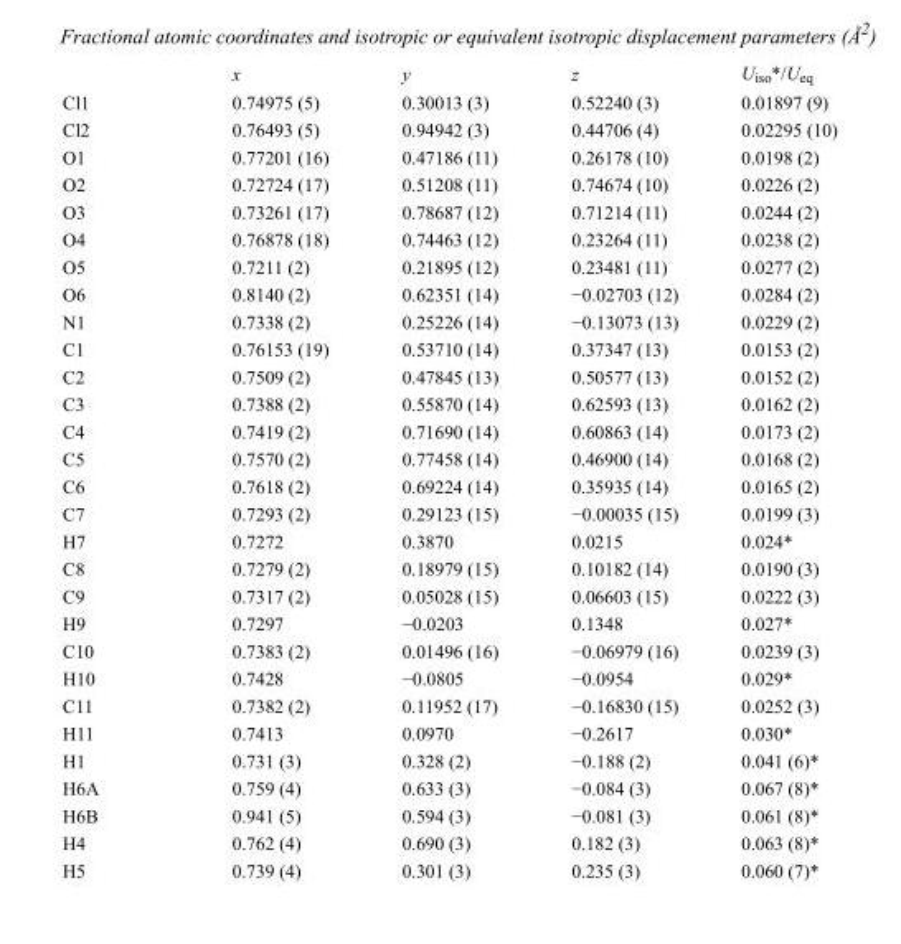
<table><thead><tr><td></td><td>x</td><td>y</td><td>z</td><td>U<sub>iso</sub>*/U<sub>eq</sub></td></tr></thead><tbody><tr><td>Cl1</td><td>0.74975 (5)</td><td>0.30013 (3)</td><td>0.52240 (3)</td><td>0.01897 (9)</td></tr><tr><td>Cl2</td><td>0.76493 (5)</td><td>0.94942 (3)</td><td>0.44706 (4)</td><td>0.02295 (10)</td></tr><tr><td>O1</td><td>0.77201 (16)</td><td>0.47186 (11)</td><td>0.26178 (10)</td><td>0.0198 (2)</td></tr><tr><td>O2</td><td>0.72724 (17)</td><td>0.51208 (11)</td><td>0.74674 (10)</td><td>0.0226 (2)</td></tr><tr><td>O3</td><td>0.73261 (17)</td><td>0.78687 (12)</td><td>0.71214 (11)</td><td>0.0244 (2)</td></tr><tr><td>O4</td><td>0.76878 (18)</td><td>0.74463 (12)</td><td>0.23264 (11)</td><td>0.0238 (2)</td></tr><tr><td>O5</td><td>0.7211 (2)</td><td>0.21895 (12)</td><td>0.23481 (11)</td><td>0.0277 (2)</td></tr><tr><td>O6</td><td>0.8140 (2)</td><td>0.62351 (14)</td><td>−0.02703 (12)</td><td>0.0284 (2)</td></tr><tr><td>N1</td><td>0.7338 (2)</td><td>0.25226 (14)</td><td>−0.13073 (13)</td><td>0.0229 (2)</td></tr><tr><td>C1</td><td>0.76153 (19)</td><td>0.53710 (14)</td><td>0.37347 (13)</td><td>0.0153 (2)</td></tr><tr><td>C2</td><td>0.7509 (2)</td><td>0.47845 (13)</td><td>0.50577 (13)</td><td>0.0152 (2)</td></tr><tr><td>C3</td><td>0.7388 (2)</td><td>0.55870 (14)</td><td>0.62593 (13)</td><td>0.0162 (2)</td></tr><tr><td>C4</td><td>0.7419 (2)</td><td>0.71690 (14)</td><td>0.60863 (14)</td><td>0.0173 (2)</td></tr><tr><td>C5</td><td>0.7570 (2)</td><td>0.77458 (14)</td><td>0.46900 (14)</td><td>0.0168 (2)</td></tr><tr><td>C6</td><td>0.7618 (2)</td><td>0.69224 (14)</td><td>0.35935 (14)</td><td>0.0165 (2)</td></tr><tr><td>C7</td><td>0.7293 (2)</td><td>0.29123 (15)</td><td>−0.00035 (15)</td><td>0.0199 (3)</td></tr><tr><td>H7</td><td>0.7272</td><td>0.3870</td><td>0.0215</td><td>0.024*</td></tr><tr><td>C8</td><td>0.7279 (2)</td><td>0.18979 (15)</td><td>0.10182 (14)</td><td>0.0190 (3)</td></tr><tr><td>C9</td><td>0.7317 (2)</td><td>0.05028 (15)</td><td>0.06603 (15)</td><td>0.0222 (3)</td></tr><tr><td>H9</td><td>0.7297</td><td>−0.0203</td><td>0.1348</td><td>0.027*</td></tr><tr><td>C10</td><td>0.7383 (2)</td><td>0.01496 (16)</td><td>−0.06979 (16)</td><td>0.0239 (3)</td></tr><tr><td>H10</td><td>0.7428</td><td>−0.0805</td><td>−0.0954</td><td>0.029*</td></tr><tr><td>C11</td><td>0.7382 (2)</td><td>0.11952 (17)</td><td>−0.16830 (15)</td><td>0.0252 (3)</td></tr><tr><td>H11</td><td>0.7413</td><td>0.0970</td><td>−0.2617</td><td>0.030*</td></tr><tr><td>H1</td><td>0.731 (3)</td><td>0.328 (2)</td><td>−0.188 (2)</td><td>0.041 (6)*</td></tr><tr><td>H6A</td><td>0.759 (4)</td><td>0.633 (3)</td><td>−0.084 (3)</td><td>0.067 (8)*</td></tr><tr><td>H6B</td><td>0.941 (5)</td><td>0.594 (3)</td><td>−0.081 (3)</td><td>0.061 (8)*</td></tr><tr><td>H4</td><td>0.762 (4)</td><td>0.690 (3)</td><td>0.182 (3)</td><td>0.063 (8)*</td></tr><tr><td>H5</td><td>0.739 (4)</td><td>0.301 (3)</td><td>0.235 (3)</td><td>0.060 (7)*</td></tr></tbody></table>